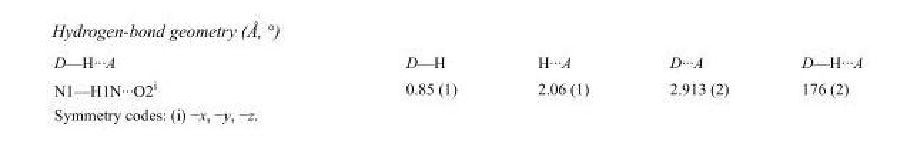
<table><tbody><tr><td>D—H···A</td><td>D—H</td><td>H···A</td><td>D···A</td><td>D—H···A</td></tr><tr><td>N1—H1N···O2<sup>i</sup></td><td>0.85 (1)</td><td>2.06 (1)</td><td>2.913 (2)</td><td>176 (2)</td></tr></tbody></table>